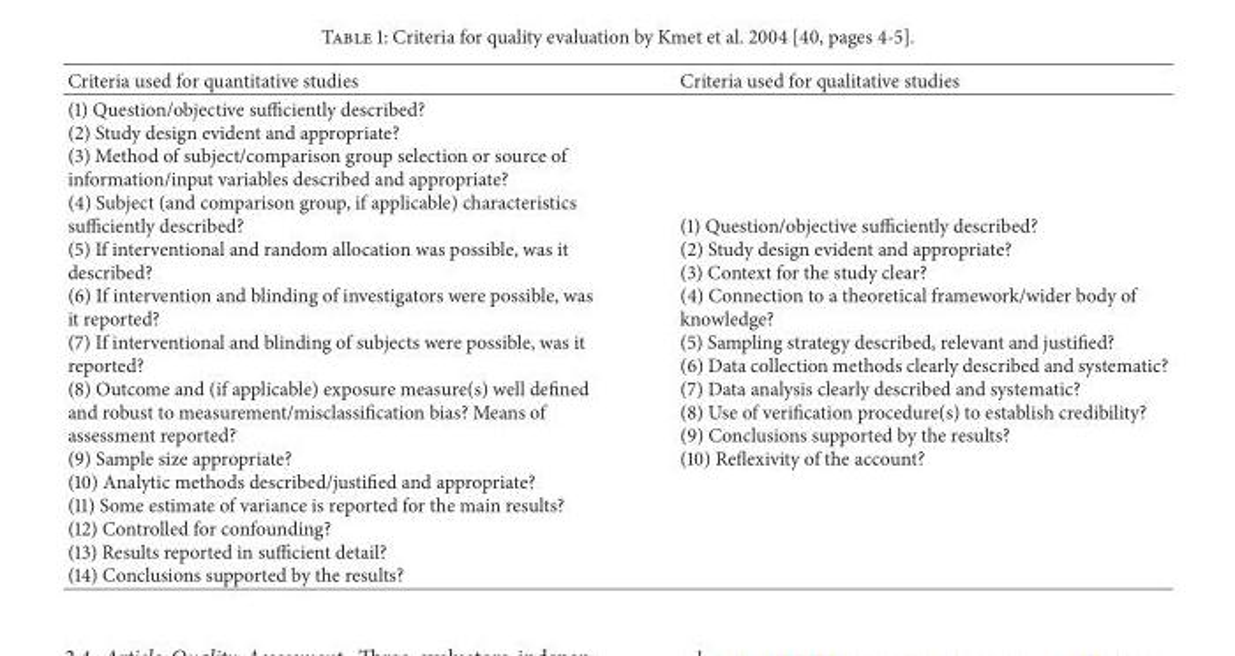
<table><thead><tr><td>Criteria used for quantitative studies</td><td>Criteria used for qualitative studies</td></tr></thead><tbody><tr><td>(1) Question/objective sufficiently described? (2) Study design evident and appropriate? (3) Method of subject/comparison group selection or source of information/input variables described and appropriate? (4) Subject (and comparison group, if applicable) characteristics sufficiently described? (5) If interventional and random allocation was possible, was it described? (6) If intervention and blinding of investigators were possible, was it reported? (7) If interventional and blinding of subjects were possible, was it reported? (8) Outcome and (if applicable) exposure measure(s) well defined and robust to measurement/misclassification bias? Means of assessment reported? (9) Sample size appropriate? (10) Analytic methods described/justified and appropriate? (11) Some estimate of variance is reported for the main results? (12) Controlled for confounding? (13) Results reported in sufficient detail? (14) Conclusions supported by the results?</td><td>(1) Question/objective sufficiently described? (2) Study design evident and appropriate? (3) Context for the study clear? (4) Connection to a theoretical framework/wider body of knowledge? (5) Sampling strategy described, relevant and justified? (6) Data collection methods clearly described and systematic? (7) Data analysis clearly described and systematic? (8) Use of verification procedure(s) to establish credibility? (9) Conclusions supported by the results? (10) Reflexivity of the account?</td></tr></tbody></table>